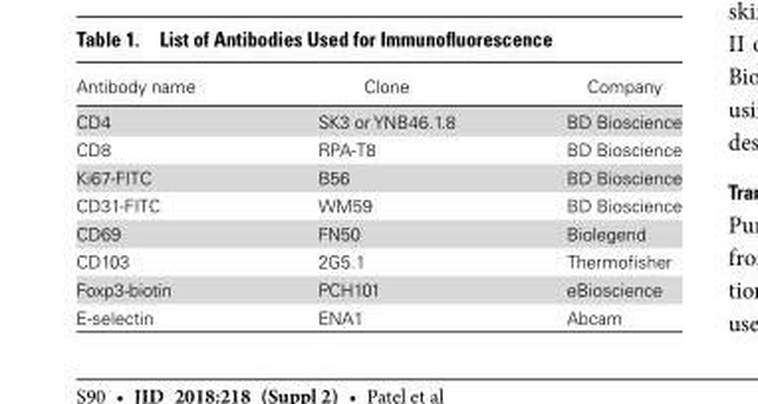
<table><thead><tr><td>Antibody name</td><td>Clone</td><td>Company</td></tr></thead><tbody><tr><td>CD4</td><td>SK3 or YNB46.1.8</td><td>BD Bioscience</td></tr><tr><td>CD8</td><td>RPA-T8</td><td>BD Bioscience</td></tr><tr><td>Ki67-FITC</td><td>B56</td><td>BD Bioscience</td></tr><tr><td>CD31-FITC</td><td>WM59</td><td>BD Bioscience</td></tr><tr><td>CD69</td><td>FN50</td><td>Biolegend</td></tr><tr><td>CD103</td><td>2G5.1</td><td>Thermofisher</td></tr><tr><td>Foxp3-biotin</td><td>PCH101</td><td>eBioscience</td></tr><tr><td>E-selectin</td><td>ENA1</td><td>Abcam</td></tr></tbody></table>